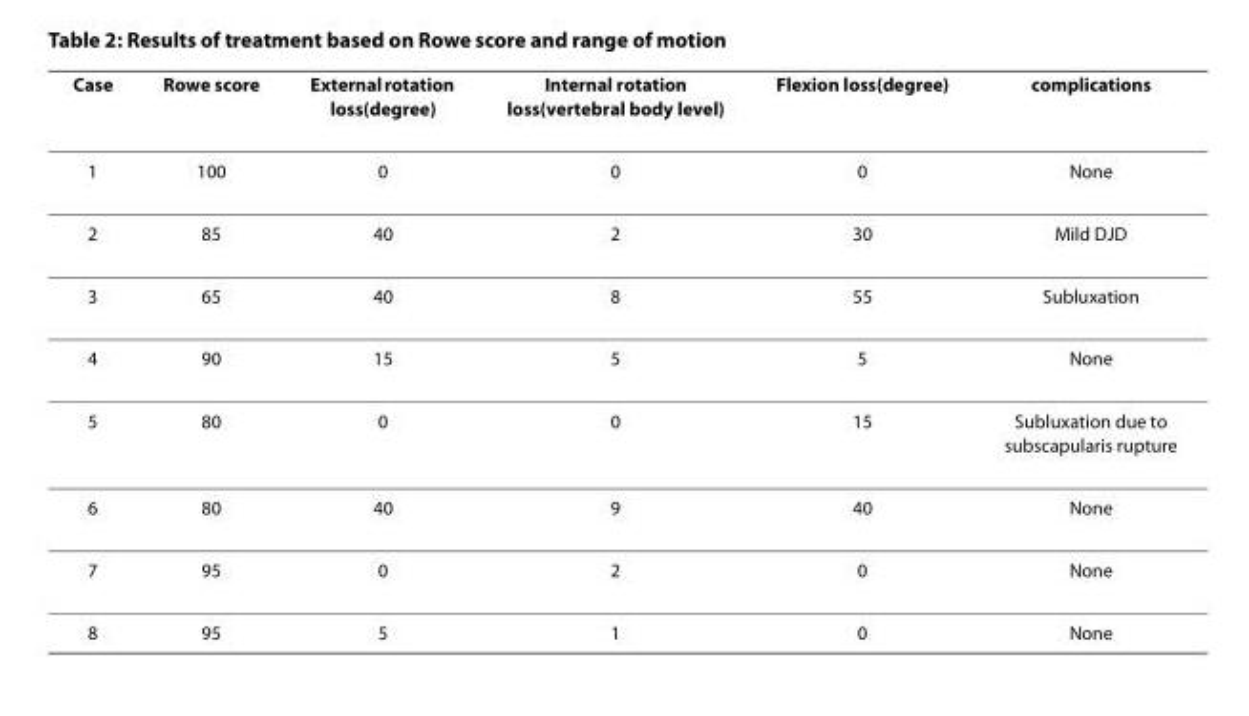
<table><thead><tr><td>Case</td><td>Rowe score</td><td>External rotation loss(degree)</td><td>Internal rotation loss(vertebral body level)</td><td>Flexion loss(degree)</td><td>complications</td></tr></thead><tbody><tr><td>1</td><td>100</td><td>0</td><td>0</td><td>0</td><td>None</td></tr><tr><td>2</td><td>85</td><td>40</td><td>2</td><td>30</td><td>Mild DJD</td></tr><tr><td>3</td><td>65</td><td>40</td><td>8</td><td>55</td><td>Subluxation</td></tr><tr><td>4</td><td>90</td><td>15</td><td>5</td><td>5</td><td>None</td></tr><tr><td>5</td><td>80</td><td>0</td><td>0</td><td>15</td><td>Subluxation due to subscapularis rupture</td></tr><tr><td>6</td><td>80</td><td>40</td><td>9</td><td>40</td><td>None</td></tr><tr><td>7</td><td>95</td><td>0</td><td>2</td><td>0</td><td>None</td></tr><tr><td>8</td><td>95</td><td>5</td><td>1</td><td>0</td><td>None</td></tr></tbody></table>